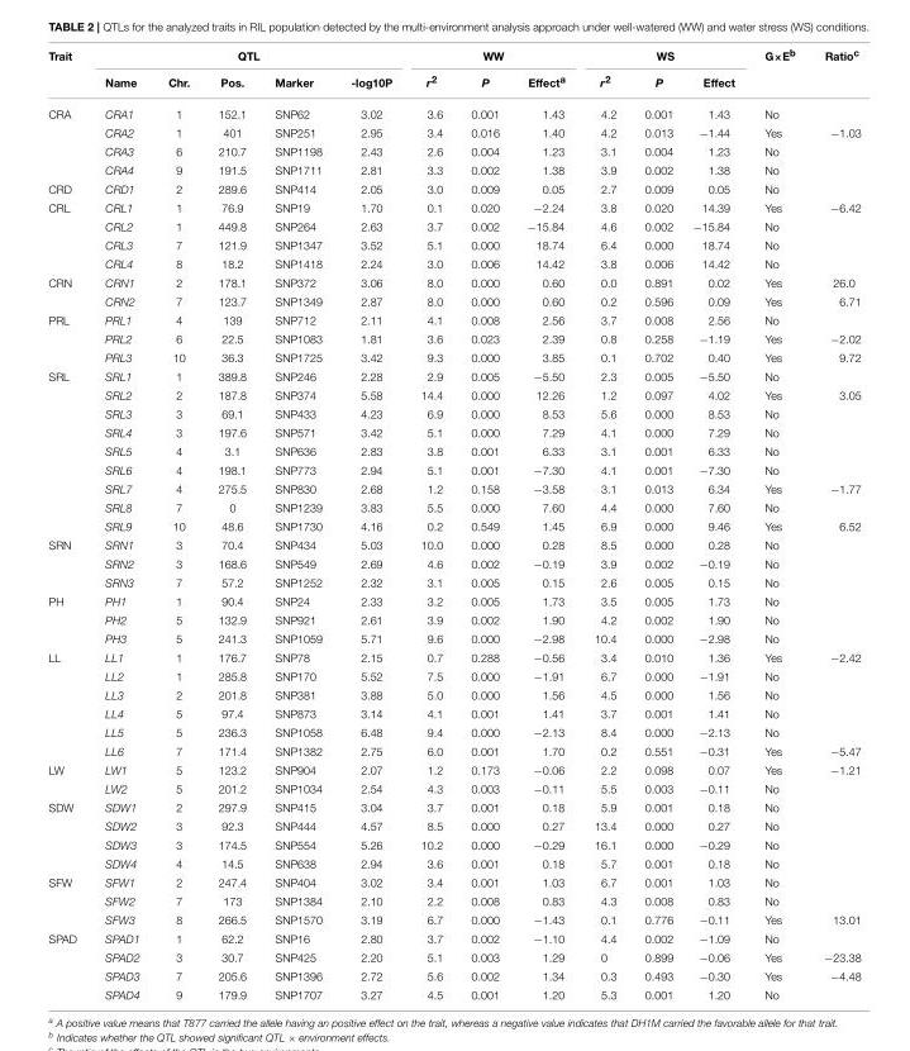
<table><thead><tr><td rowspan="2">Trait</td><td colspan="5">QTL</td><td colspan="3">WW</td><td colspan="3">WS</td><td rowspan="2">G×E<sup>b</sup></td><td rowspan="2">Ratio<sup>c</sup></td></tr><tr><td>Name</td><td>Chr.</td><td>Pos.</td><td>Marker</td><td>-log10P</td><td>r<sup>2</sup></td><td>P</td><td>Effect<sup>a</sup></td><td>r<sup>2</sup></td><td>P</td><td>Effect</td></tr></thead><tbody><tr><td rowspan="4">CRA</td><td>CRA1</td><td>1</td><td>152.1</td><td>SNP62</td><td>3.02</td><td>3.6</td><td>0.001</td><td>1.43</td><td>4.2</td><td>0.001</td><td>1.43</td><td>No</td><td></td></tr><tr><td>CRA2</td><td>1</td><td>401</td><td>SNP251</td><td>2.95</td><td>3.4</td><td>0.016</td><td>1.40</td><td>4.2</td><td>0.013</td><td>−1.44</td><td>Yes</td><td>−1.03</td></tr><tr><td>CRA3</td><td>6</td><td>210.7</td><td>SNP1198</td><td>2.43</td><td>2.6</td><td>0.004</td><td>1.23</td><td>3.1</td><td>0.004</td><td>1.23</td><td>No</td><td></td></tr><tr><td>CRA4</td><td>9</td><td>191.5</td><td>SNP1711</td><td>2.81</td><td>3.3</td><td>0.002</td><td>1.38</td><td>3.9</td><td>0.002</td><td>1.38</td><td>No</td><td></td></tr><tr><td>CRD</td><td>CRD1</td><td>2</td><td>289.6</td><td>SNP414</td><td>2.05</td><td>3.0</td><td>0.009</td><td>0.05</td><td>2.7</td><td>0.009</td><td>0.05</td><td>No</td><td></td></tr><tr><td rowspan="4">CRL</td><td>CRL1</td><td>1</td><td>76.9</td><td>SNP19</td><td>1.70</td><td>0.1</td><td>0.020</td><td>−2.24</td><td>3.8</td><td>0.020</td><td>14.39</td><td>Yes</td><td>−6.42</td></tr><tr><td>CRL2</td><td>1</td><td>449.8</td><td>SNP264</td><td>2.63</td><td>3.7</td><td>0.002</td><td>−15.84</td><td>4.6</td><td>0.002</td><td>−15.84</td><td>No</td><td></td></tr><tr><td>CRL3</td><td>7</td><td>121.9</td><td>SNP1347</td><td>3.52</td><td>5.1</td><td>0.000</td><td>18.74</td><td>6.4</td><td>0.000</td><td>18.74</td><td>No</td><td></td></tr><tr><td>CRL4</td><td>8</td><td>18.2</td><td>SNP1418</td><td>2.24</td><td>3.0</td><td>0.006</td><td>14.42</td><td>3.8</td><td>0.006</td><td>14.42</td><td>No</td><td></td></tr><tr><td rowspan="2">CRN</td><td>CRN1</td><td>2</td><td>178.1</td><td>SNP372</td><td>3.06</td><td>8.0</td><td>0.000</td><td>0.60</td><td>0.0</td><td>0.891</td><td>0.02</td><td>Yes</td><td>26.0</td></tr><tr><td>CRN2</td><td>7</td><td>123.7</td><td>SNP1349</td><td>2.87</td><td>8.0</td><td>0.000</td><td>0.60</td><td>0.2</td><td>0.596</td><td>0.09</td><td>Yes</td><td>6.71</td></tr><tr><td rowspan="3">PRL</td><td>PRL1</td><td>4</td><td>139</td><td>SNP712</td><td>2.11</td><td>4.1</td><td>0.008</td><td>2.56</td><td>3.7</td><td>0.008</td><td>2.56</td><td>No</td><td></td></tr><tr><td>PRL2</td><td>6</td><td>22.5</td><td>SNP1083</td><td>1.81</td><td>3.6</td><td>0.023</td><td>2.39</td><td>0.8</td><td>0.258</td><td>−1.19</td><td>Yes</td><td>−2.02</td></tr><tr><td>PRL3</td><td>10</td><td>36.3</td><td>SNP1725</td><td>3.42</td><td>9.3</td><td>0.000</td><td>3.85</td><td>0.1</td><td>0.702</td><td>0.40</td><td>Yes</td><td>9.72</td></tr><tr><td rowspan="9">SRL</td><td>SRL1</td><td>1</td><td>389.8</td><td>SNP246</td><td>2.28</td><td>2.9</td><td>0.005</td><td>−5.50</td><td>2.3</td><td>0.005</td><td>−5.50</td><td>No</td><td></td></tr><tr><td>SRL2</td><td>2</td><td>187.8</td><td>SNP374</td><td>5.58</td><td>14.4</td><td>0.000</td><td>12.26</td><td>1.2</td><td>0.097</td><td>4.02</td><td>Yes</td><td>3.05</td></tr><tr><td>SRL3</td><td>3</td><td>69.1</td><td>SNP433</td><td>4.23</td><td>6.9</td><td>0.000</td><td>8.53</td><td>5.6</td><td>0.000</td><td>8.53</td><td>No</td><td></td></tr><tr><td>SRL4</td><td>3</td><td>197.6</td><td>SNP571</td><td>3.42</td><td>5.1</td><td>0.000</td><td>7.29</td><td>4.1</td><td>0.000</td><td>7.29</td><td>No</td><td></td></tr><tr><td>SRL5</td><td>4</td><td>3.1</td><td>SNP636</td><td>2.83</td><td>3.8</td><td>0.001</td><td>6.33</td><td>3.1</td><td>0.001</td><td>6.33</td><td>No</td><td></td></tr><tr><td>SRL6</td><td>4</td><td>198.1</td><td>SNP773</td><td>2.94</td><td>5.1</td><td>0.001</td><td>−7.30</td><td>4.1</td><td>0.001</td><td>−7.30</td><td>No</td><td></td></tr><tr><td>SRL7</td><td>4</td><td>275.5</td><td>SNP830</td><td>2.68</td><td>1.2</td><td>0.158</td><td>−3.58</td><td>3.1</td><td>0.013</td><td>6.34</td><td>Yes</td><td>−1.77</td></tr><tr><td>SRL8</td><td>7</td><td>0</td><td>SNP1239</td><td>3.83</td><td>5.5</td><td>0.000</td><td>7.60</td><td>4.4</td><td>0.000</td><td>7.60</td><td>No</td><td></td></tr><tr><td>SRL9</td><td>10</td><td>48.6</td><td>SNP1730</td><td>4.16</td><td>0.2</td><td>0.549</td><td>1.45</td><td>6.9</td><td>0.000</td><td>9.46</td><td>Yes</td><td>6.52</td></tr><tr><td rowspan="3">SRN</td><td>SRN1</td><td>3</td><td>70.4</td><td>SNP434</td><td>5.03</td><td>10.0</td><td>0.000</td><td>0.28</td><td>8.5</td><td>0.000</td><td>0.28</td><td>No</td><td></td></tr><tr><td>SRN2</td><td>3</td><td>168.6</td><td>SNP549</td><td>2.69</td><td>4.6</td><td>0.002</td><td>−0.19</td><td>3.9</td><td>0.002</td><td>−0.19</td><td>No</td><td></td></tr><tr><td>SRN3</td><td>7</td><td>57.2</td><td>SNP1252</td><td>2.32</td><td>3.1</td><td>0.005</td><td>0.15</td><td>2.6</td><td>0.005</td><td>0.15</td><td>No</td><td></td></tr><tr><td rowspan="3">PH</td><td>PH1</td><td>1</td><td>90.4</td><td>SNP24</td><td>2.33</td><td>3.2</td><td>0.005</td><td>1.73</td><td>3.5</td><td>0.005</td><td>1.73</td><td>No</td><td></td></tr><tr><td>PH2</td><td>5</td><td>132.9</td><td>SNP921</td><td>2.61</td><td>3.9</td><td>0.002</td><td>1.90</td><td>4.2</td><td>0.002</td><td>1.90</td><td>No</td><td></td></tr><tr><td>PH3</td><td>5</td><td>241.3</td><td>SNP1059</td><td>5.71</td><td>9.6</td><td>0.000</td><td>−2.98</td><td>10.4</td><td>0.000</td><td>−2.98</td><td>No</td><td></td></tr><tr><td rowspan="6">LL</td><td>LL1</td><td>1</td><td>176.7</td><td>SNP78</td><td>2.15</td><td>0.7</td><td>0.288</td><td>−0.56</td><td>3.4</td><td>0.010</td><td>1.36</td><td>Yes</td><td>−2.42</td></tr><tr><td>LL2</td><td>1</td><td>285.8</td><td>SNP170</td><td>5.52</td><td>7.5</td><td>0.000</td><td>−1.91</td><td>6.7</td><td>0.000</td><td>−1.91</td><td>No</td><td></td></tr><tr><td>LL3</td><td>2</td><td>201.8</td><td>SNP381</td><td>3.88</td><td>5.0</td><td>0.000</td><td>1.56</td><td>4.5</td><td>0.000</td><td>1.56</td><td>No</td><td></td></tr><tr><td>LL4</td><td>5</td><td>97.4</td><td>SNP873</td><td>3.14</td><td>4.1</td><td>0.001</td><td>1.41</td><td>3.7</td><td>0.001</td><td>1.41</td><td>No</td><td></td></tr><tr><td>LL5</td><td>5</td><td>236.3</td><td>SNP1058</td><td>6.48</td><td>9.4</td><td>0.000</td><td>−2.13</td><td>8.4</td><td>0.000</td><td>−2.13</td><td>No</td><td></td></tr><tr><td>LL6</td><td>7</td><td>171.4</td><td>SNP1382</td><td>2.75</td><td>6.0</td><td>0.001</td><td>1.70</td><td>0.2</td><td>0.551</td><td>−0.31</td><td>Yes</td><td>−5.47</td></tr><tr><td rowspan="2">LW</td><td>LW1</td><td>5</td><td>123.2</td><td>SNP904</td><td>2.07</td><td>1.2</td><td>0.173</td><td>−0.06</td><td>2.2</td><td>0.098</td><td>0.07</td><td>Yes</td><td>−1.21</td></tr><tr><td>LW2</td><td>5</td><td>201.2</td><td>SNP1034</td><td>2.54</td><td>4.3</td><td>0.003</td><td>−0.11</td><td>5.5</td><td>0.003</td><td>−0.11</td><td>No</td><td></td></tr><tr><td rowspan="4">SDW</td><td>SDW1</td><td>2</td><td>297.9</td><td>SNP415</td><td>3.04</td><td>3.7</td><td>0.001</td><td>0.18</td><td>5.9</td><td>0.001</td><td>0.18</td><td>No</td><td></td></tr><tr><td>SDW2</td><td>3</td><td>92.3</td><td>SNP444</td><td>4.57</td><td>8.5</td><td>0.000</td><td>0.27</td><td>13.4</td><td>0.000</td><td>0.27</td><td>No</td><td></td></tr><tr><td>SDW3</td><td>3</td><td>174.5</td><td>SNP554</td><td>5.26</td><td>10.2</td><td>0.000</td><td>−0.29</td><td>16.1</td><td>0.000</td><td>−0.29</td><td>No</td><td></td></tr><tr><td>SDW4</td><td>4</td><td>14.5</td><td>SNP638</td><td>2.94</td><td>3.6</td><td>0.001</td><td>0.18</td><td>5.7</td><td>0.001</td><td>0.18</td><td>No</td><td></td></tr><tr><td rowspan="3">SFW</td><td>SFW1</td><td>2</td><td>247.4</td><td>SNP404</td><td>3.02</td><td>3.4</td><td>0.001</td><td>1.03</td><td>6.7</td><td>0.001</td><td>1.03</td><td>No</td><td></td></tr><tr><td>SFW2</td><td>7</td><td>173</td><td>SNP1384</td><td>2.10</td><td>2.2</td><td>0.008</td><td>0.83</td><td>4.3</td><td>0.008</td><td>0.83</td><td>No</td><td></td></tr><tr><td>SFW3</td><td>8</td><td>266.5</td><td>SNP1570</td><td>3.19</td><td>6.7</td><td>0.000</td><td>−1.43</td><td>0.1</td><td>0.776</td><td>−0.11</td><td>Yes</td><td>13.01</td></tr><tr><td rowspan="4">SPAD</td><td>SPAD1</td><td>1</td><td>62.2</td><td>SNP16</td><td>2.80</td><td>3.7</td><td>0.002</td><td>−1.10</td><td>4.4</td><td>0.002</td><td>−1.09</td><td>No</td><td></td></tr><tr><td>SPAD2</td><td>3</td><td>30.7</td><td>SNP425</td><td>2.20</td><td>5.1</td><td>0.003</td><td>1.29</td><td>0</td><td>0.899</td><td>−0.06</td><td>Yes</td><td>−23.38</td></tr><tr><td>SPAD3</td><td>7</td><td>205.6</td><td>SNP1396</td><td>2.72</td><td>5.6</td><td>0.002</td><td>1.34</td><td>0.3</td><td>0.493</td><td>−0.30</td><td>Yes</td><td>−4.48</td></tr><tr><td>SPAD4</td><td>9</td><td>179.9</td><td>SNP1707</td><td>3.27</td><td>4.5</td><td>0.001</td><td>1.20</td><td>5.3</td><td>0.001</td><td>1.20</td><td>No</td><td></td></tr></tbody></table>